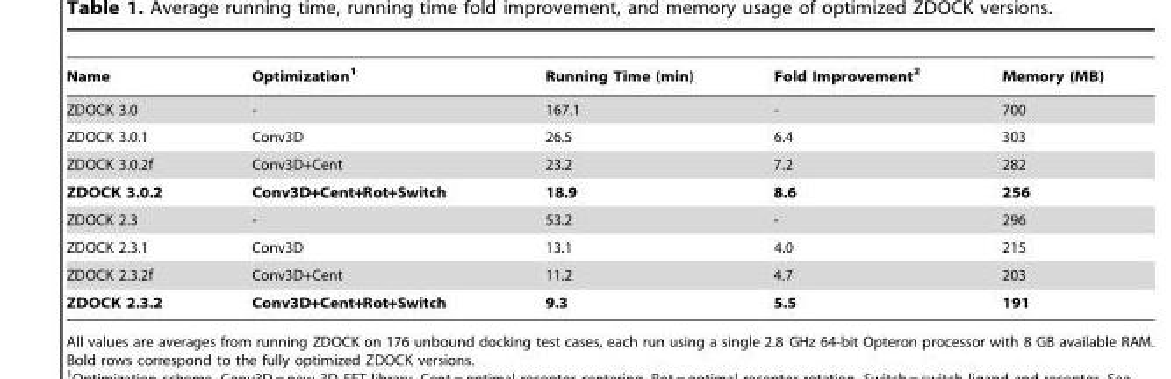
<table><thead><tr><td>Name</td><td>Optimization<sup>1</sup></td><td>Running Time (min)</td><td>Fold Improvement<sup>2</sup></td><td>Memory (MB)</td></tr></thead><tbody><tr><td>ZDOCK 3.0</td><td>-</td><td>167.1</td><td>-</td><td>700</td></tr><tr><td>ZDOCK 3.0.1</td><td>Conv3D</td><td>26.5</td><td>6.4</td><td>303</td></tr><tr><td>ZDOCK 3.0.2f</td><td>Conv3D+Cent</td><td>23.2</td><td>7.2</td><td>282</td></tr><tr><td>ZDOCK 3.0.2</td><td>Conv3D+Cent+Rot+Switch</td><td>18.9</td><td>8.6</td><td>256</td></tr><tr><td>ZDOCK 2.3</td><td>-</td><td>53.2</td><td>-</td><td>296</td></tr><tr><td>ZDOCK 2.3.1</td><td>Conv3D</td><td>13.1</td><td>4.0</td><td>215</td></tr><tr><td>ZDOCK 2.3.2f</td><td>Conv3D+Cent</td><td>11.2</td><td>4.7</td><td>203</td></tr><tr><td>ZDOCK 2.3.2</td><td>Conv3D+Cent+Rot+Switch</td><td>9.3</td><td>5.5</td><td>191</td></tr></tbody></table>